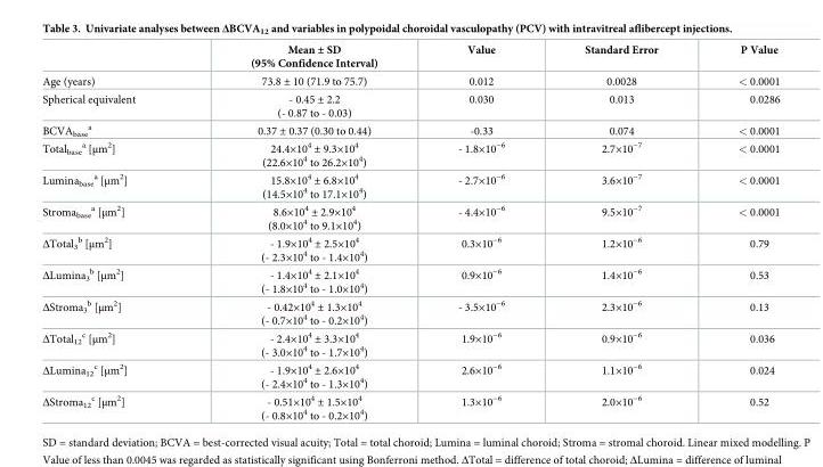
<table><thead><tr><td></td><td>Mean ± SD (95% Confidence Interval)</td><td>Value</td><td>Standard Error</td><td>P Value</td></tr></thead><tbody><tr><td>Age (years)</td><td>73.8 ± 10 (71.9 to 75.7)</td><td>0.012</td><td>0.0028</td><td>&lt; 0.0001</td></tr><tr><td>Spherical equivalent</td><td>- 0.45 ± 2.2 (- 0.87 to - 0.03)</td><td>0.030</td><td>0.013</td><td>0.0286</td></tr><tr><td>BCVA<sub>base</sub> <sup>a</sup></td><td>0.37 ± 0.37 (0.30 to 0.44)</td><td>-0.33</td><td>0.074</td><td>&lt; 0.0001</td></tr><tr><td>Total<sub>base</sub> <sup>a</sup> [μm<sup>2</sup>]</td><td>24.4×10<sup>4</sup> ± 9.3×10<sup>4</sup> (22.6×10<sup>4</sup> to 26.2×10<sup>4</sup>)</td><td>- 1.8×10<sup>−6</sup></td><td>2.7×10<sup>−7</sup></td><td>&lt; 0.0001</td></tr><tr><td>Lumina<sub>base</sub> <sup>a</sup> [μm<sup>2</sup>]</td><td>15.8×10<sup>4</sup> ± 6.8×10<sup>4</sup> (14.5×10<sup>4</sup> to 17.1×10<sup>4</sup>)</td><td>- 2.7×10<sup>−6</sup></td><td>3.6×10<sup>−7</sup></td><td>&lt; 0.0001</td></tr><tr><td>Stroma<sub>base</sub> <sup>a</sup> [μm<sup>2</sup>]</td><td>8.6×10<sup>4</sup> ± 2.9×10<sup>4</sup> (8.0×10<sup>4</sup> to 9.1×10<sup>4</sup>)</td><td>- 4.4×10<sup>−6</sup></td><td>9.5×10<sup>−7</sup></td><td>&lt; 0.0001</td></tr><tr><td>ΔTotal<sub>3</sub> <sup>b</sup> [μm<sup>2</sup>]</td><td>- 1.9×10<sup>4</sup> ± 2.5×10<sup>4</sup> (- 2.3×10<sup>4</sup> to - 1.4×10<sup>4</sup>)</td><td>0.3×10<sup>−6</sup></td><td>1.2×10<sup>−6</sup></td><td>0.79</td></tr><tr><td>ΔLumina<sub>3</sub> <sup>b</sup> [μm<sup>2</sup>]</td><td>- 1.4×10<sup>4</sup> ± 2.1×10<sup>4</sup> (- 1.8×10<sup>4</sup> to - 1.0×10<sup>4</sup>)</td><td>0.9×10<sup>−6</sup></td><td>1.4×10<sup>−6</sup></td><td>0.53</td></tr><tr><td>ΔStroma<sub>3</sub> <sup>b</sup> [μm<sup>2</sup>]</td><td>- 0.42×10<sup>4</sup> ± 1.3×10<sup>4</sup> (- 0.7×10<sup>4</sup> to - 0.2×10<sup>4</sup>)</td><td>- 3.5×10<sup>−6</sup></td><td>2.3×10<sup>−6</sup></td><td>0.13</td></tr><tr><td>ΔTotal<sub>12</sub> <sup>c</sup> [μm<sup>2</sup>]</td><td>- 2.4×10<sup>4</sup> ± 3.3×10<sup>4</sup> (- 3.0×10<sup>4</sup> to - 1.7×10<sup>4</sup>)</td><td>1.9×10<sup>−6</sup></td><td>0.9×10<sup>−6</sup></td><td>0.036</td></tr><tr><td>ΔLumina<sub>12</sub> <sup>c</sup> [μm<sup>2</sup>]</td><td>- 1.9×10<sup>4</sup> ± 2.6×10<sup>4</sup> (- 2.4×10<sup>4</sup> to - 1.3×10<sup>4</sup>)</td><td>2.6×10<sup>−6</sup></td><td>1.1×10<sup>−6</sup></td><td>0.024</td></tr><tr><td>ΔStroma<sub>12</sub> <sup>c</sup> [μm<sup>2</sup>]</td><td>- 0.51×10<sup>4</sup> ± 1.5×10<sup>4</sup> (- 0.8×10<sup>4</sup> to - 0.2×10<sup>4</sup>)</td><td>1.3×10<sup>−6</sup></td><td>2.0×10<sup>−6</sup></td><td>0.52</td></tr></tbody></table>